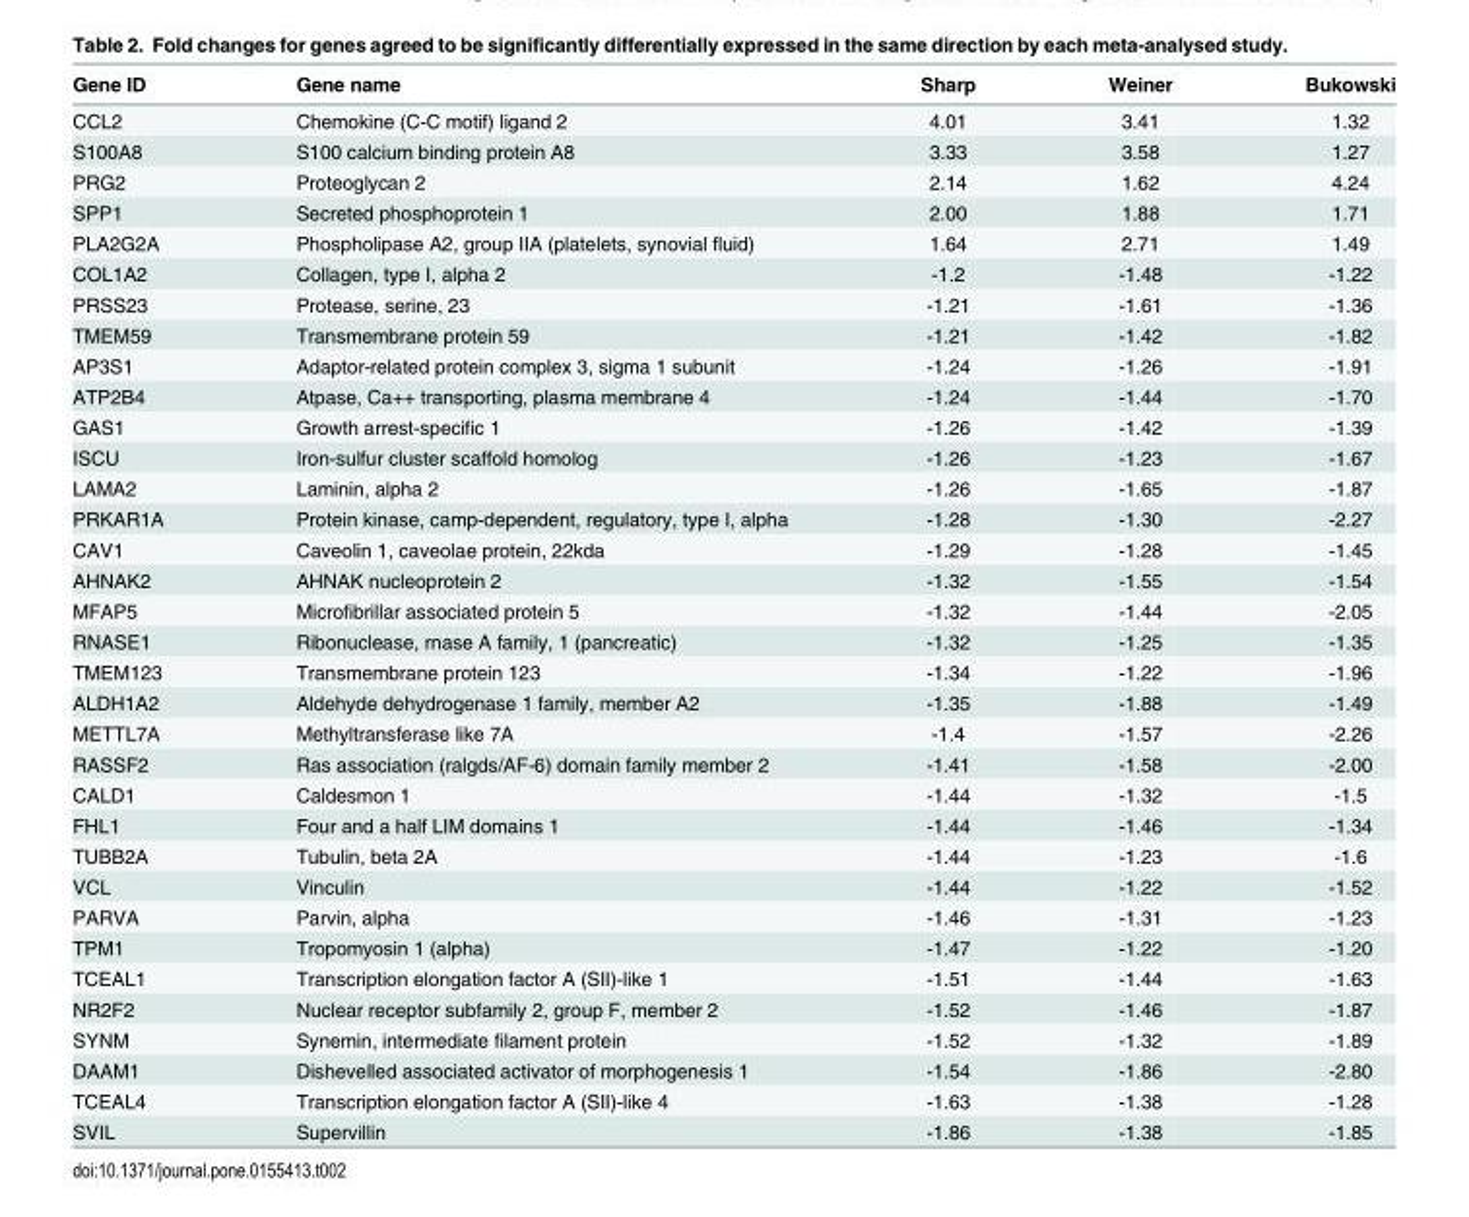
<table><thead><tr><td>Gene ID</td><td>Gene name</td><td>Sharp</td><td>Weiner</td><td>Bukowski</td></tr></thead><tbody><tr><td>CCL2</td><td>Chemokine (C-C motif) ligand 2</td><td>4.01</td><td>3.41</td><td>1.32</td></tr><tr><td>S100A8</td><td>S100 calcium binding protein A8</td><td>3.33</td><td>3.58</td><td>1.27</td></tr><tr><td>PRG2</td><td>Proteoglycan 2</td><td>2.14</td><td>1.62</td><td>4.24</td></tr><tr><td>SPP1</td><td>Secreted phosphoprotein 1</td><td>2.00</td><td>1.88</td><td>1.71</td></tr><tr><td>PLA2G2A</td><td>Phospholipase A2, group IIA (platelets, synovial fluid)</td><td>1.64</td><td>2.71</td><td>1.49</td></tr><tr><td>COL1A2</td><td>Collagen, type I, alpha 2</td><td>-1.2</td><td>-1.48</td><td>-1.22</td></tr><tr><td>PRSS23</td><td>Protease, serine, 23</td><td>-1.21</td><td>-1.61</td><td>-1.36</td></tr><tr><td>TMEM59</td><td>Transmembrane protein 59</td><td>-1.21</td><td>-1.42</td><td>-1.82</td></tr><tr><td>AP3S1</td><td>Adaptor-related protein complex 3, sigma 1 subunit</td><td>-1.24</td><td>-1.26</td><td>-1.91</td></tr><tr><td>ATP2B4</td><td>Atpase, Ca++ transporting, plasma membrane 4</td><td>-1.24</td><td>-1.44</td><td>-1.70</td></tr><tr><td>GAS1</td><td>Growth arrest-specific 1</td><td>-1.26</td><td>-1.42</td><td>-1.39</td></tr><tr><td>ISCU</td><td>Iron-sulfur cluster scaffold homolog</td><td>-1.26</td><td>-1.23</td><td>-1.67</td></tr><tr><td>LAMA2</td><td>Laminin, alpha 2</td><td>-1.26</td><td>-1.65</td><td>-1.87</td></tr><tr><td>PRKAR1A</td><td>Protein kinase, camp-dependent, regulatory, type I, alpha</td><td>-1.28</td><td>-1.30</td><td>-2.27</td></tr><tr><td>CAV1</td><td>Caveolin 1, caveolae protein, 22kda</td><td>-1.29</td><td>-1.28</td><td>-1.45</td></tr><tr><td>AHNAK2</td><td>AHNAK nucleoprotein 2</td><td>-1.32</td><td>-1.55</td><td>-1.54</td></tr><tr><td>MFAP5</td><td>Microfibrillar associated protein 5</td><td>-1.32</td><td>-1.44</td><td>-2.05</td></tr><tr><td>RNASE1</td><td>Ribonuclease, rnase A family, 1 (pancreatic)</td><td>-1.32</td><td>-1.25</td><td>-1.35</td></tr><tr><td>TMEM123</td><td>Transmembrane protein 123</td><td>-1.34</td><td>-1.22</td><td>-1.96</td></tr><tr><td>ALDH1A2</td><td>Aldehyde dehydrogenase 1 family, member A2</td><td>-1.35</td><td>-1.88</td><td>-1.49</td></tr><tr><td>METTL7A</td><td>Methyltransferase like 7A</td><td>-1.4</td><td>-1.57</td><td>-2.26</td></tr><tr><td>RASSF2</td><td>Ras association (ralgds/AF-6) domain family member 2</td><td>-1.41</td><td>-1.58</td><td>-2.00</td></tr><tr><td>CALD1</td><td>Caldesmon 1</td><td>-1.44</td><td>-1.32</td><td>-1.5</td></tr><tr><td>FHL1</td><td>Four and a half LIM domains 1</td><td>-1.44</td><td>-1.46</td><td>-1.34</td></tr><tr><td>TUBB2A</td><td>Tubulin, beta 2A</td><td>-1.44</td><td>-1.23</td><td>-1.6</td></tr><tr><td>VCL</td><td>Vinculin</td><td>-1.44</td><td>-1.22</td><td>-1.52</td></tr><tr><td>PARVA</td><td>Parvin, alpha</td><td>-1.46</td><td>-1.31</td><td>-1.23</td></tr><tr><td>TPM1</td><td>Tropomyosin 1 (alpha)</td><td>-1.47</td><td>-1.22</td><td>-1.20</td></tr><tr><td>TCEAL1</td><td>Transcription elongation factor A (SII)-like 1</td><td>-1.51</td><td>-1.44</td><td>-1.63</td></tr><tr><td>NR2F2</td><td>Nuclear receptor subfamily 2, group F, member 2</td><td>-1.52</td><td>-1.46</td><td>-1.87</td></tr><tr><td>SYNM</td><td>Synemin, intermediate filament protein</td><td>-1.52</td><td>-1.32</td><td>-1.89</td></tr><tr><td>DAAM1</td><td>Dishevelled associated activator of morphogenesis 1</td><td>-1.54</td><td>-1.86</td><td>-2.80</td></tr><tr><td>TCEAL4</td><td>Transcription elongation factor A (SII)-like 4</td><td>-1.63</td><td>-1.38</td><td>-1.28</td></tr><tr><td>SVIL</td><td>Supervillin</td><td>-1.86</td><td>-1.38</td><td>-1.85</td></tr></tbody></table>